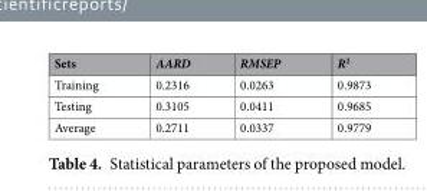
<table><thead><tr><td>Sets</td><td>AARD</td><td>RMSEP</td><td>R<sup>2</sup></td></tr></thead><tbody><tr><td>Training</td><td>0.2316</td><td>0.0263</td><td>0.9873</td></tr><tr><td>Testing</td><td>0.3105</td><td>0.0411</td><td>0.9685</td></tr><tr><td>Average</td><td>0.2711</td><td>0.0337</td><td>0.9779</td></tr></tbody></table>